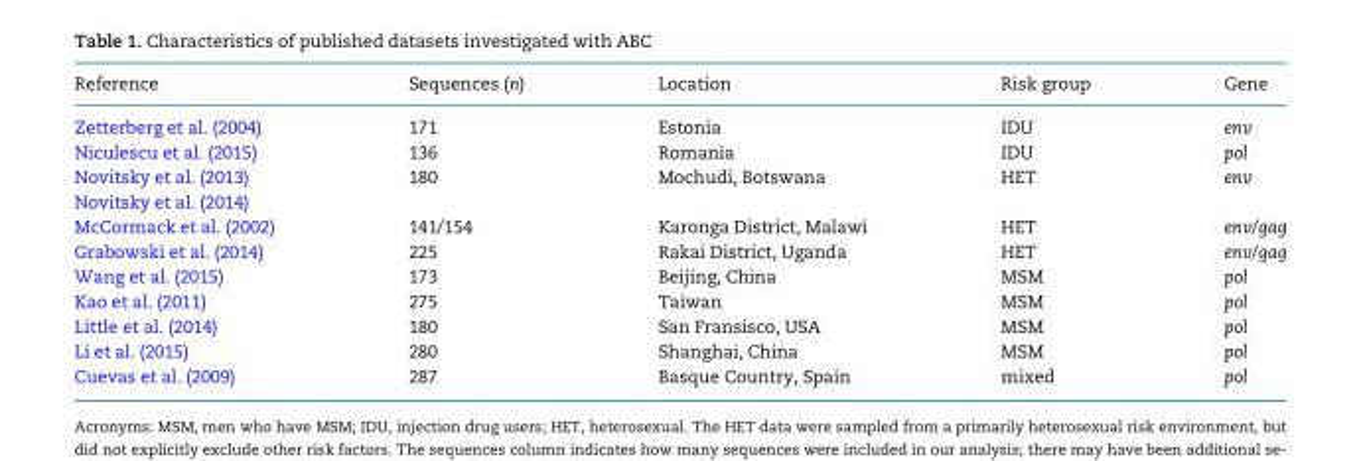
<table><thead><tr><td>Reference</td><td>Sequences (n)</td><td>Location</td><td>Risk group</td><td>Gene</td></tr></thead><tbody><tr><td>Zetterberg et al. (2004)</td><td>171</td><td>Estonia</td><td>IDU</td><td>env</td></tr><tr><td>Niculescu et al. (2015)</td><td>136</td><td>Romania</td><td>IDU</td><td>pol</td></tr><tr><td>Novitsky et al. (2013)</td><td>180</td><td>Mochudi, Botswana</td><td>HET</td><td>env</td></tr><tr><td colspan="5">Novitsky et al. (2014)</td></tr><tr><td>McCormack et al. (2002)</td><td>141/154</td><td>Karonga District, Malawi</td><td>HET</td><td>env/gag</td></tr><tr><td>Grabowski et al. (2014)</td><td>225</td><td>Rakai District, Uganda</td><td>HET</td><td>env/gag</td></tr><tr><td>Wang et al. (2015)</td><td>173</td><td>Beijing, China</td><td>MSM</td><td>pol</td></tr><tr><td>Kao et al. (2011)</td><td>275</td><td>Taiwan</td><td>MSM</td><td>pol</td></tr><tr><td>Little et al. (2014)</td><td>180</td><td>San Fransisco, USA</td><td>MSM</td><td>pol</td></tr><tr><td>Li et al. (2015)</td><td>280</td><td>Shanghai, China</td><td>MSM</td><td>pol</td></tr><tr><td>Cuevas et al. (2009)</td><td>287</td><td>Basque Country, Spain</td><td>mixed</td><td>pol</td></tr></tbody></table>